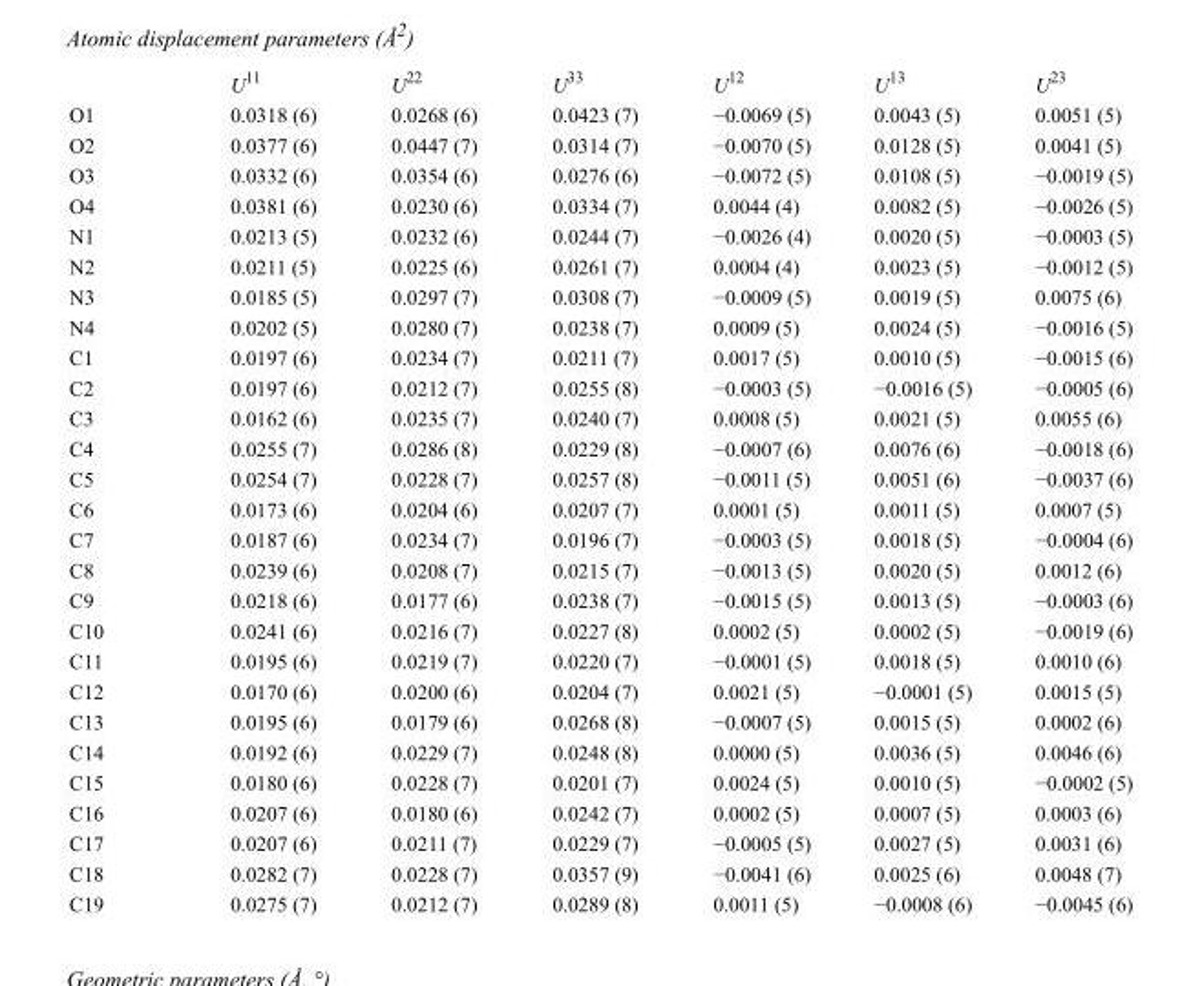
<table><thead><tr><td></td><td>U<sup>11</sup></td><td>U<sup>22</sup></td><td>U<sup>33</sup></td><td>U<sup>12</sup></td><td>U<sup>13</sup></td><td>U<sup>23</sup></td></tr></thead><tbody><tr><td>O1</td><td>0.0318 (6)</td><td>0.0268 (6)</td><td>0.0423 (7)</td><td>−0.0069 (5)</td><td>0.0043 (5)</td><td>0.0051 (5)</td></tr><tr><td>O2</td><td>0.0377 (6)</td><td>0.0447 (7)</td><td>0.0314 (7)</td><td>−0.0070 (5)</td><td>0.0128 (5)</td><td>0.0041 (5)</td></tr><tr><td>O3</td><td>0.0332 (6)</td><td>0.0354 (6)</td><td>0.0276 (6)</td><td>−0.0072 (5)</td><td>0.0108 (5)</td><td>−0.0019 (5)</td></tr><tr><td>O4</td><td>0.0381 (6)</td><td>0.0230 (6)</td><td>0.0334 (7)</td><td>0.0044 (4)</td><td>0.0082 (5)</td><td>−0.0026 (5)</td></tr><tr><td>N1</td><td>0.0213 (5)</td><td>0.0232 (6)</td><td>0.0244 (7)</td><td>−0.0026 (4)</td><td>0.0020 (5)</td><td>−0.0003 (5)</td></tr><tr><td>N2</td><td>0.0211 (5)</td><td>0.0225 (6)</td><td>0.0261 (7)</td><td>0.0004 (4)</td><td>0.0023 (5)</td><td>−0.0012 (5)</td></tr><tr><td>N3</td><td>0.0185 (5)</td><td>0.0297 (7)</td><td>0.0308 (7)</td><td>−0.0009 (5)</td><td>0.0019 (5)</td><td>0.0075 (6)</td></tr><tr><td>N4</td><td>0.0202 (5)</td><td>0.0280 (7)</td><td>0.0238 (7)</td><td>0.0009 (5)</td><td>0.0024 (5)</td><td>−0.0016 (5)</td></tr><tr><td>C1</td><td>0.0197 (6)</td><td>0.0234 (7)</td><td>0.0211 (7)</td><td>0.0017 (5)</td><td>0.0010 (5)</td><td>−0.0015 (6)</td></tr><tr><td>C2</td><td>0.0197 (6)</td><td>0.0212 (7)</td><td>0.0255 (8)</td><td>−0.0003 (5)</td><td>−0.0016 (5)</td><td>−0.0005 (6)</td></tr><tr><td>C3</td><td>0.0162 (6)</td><td>0.0235 (7)</td><td>0.0240 (7)</td><td>0.0008 (5)</td><td>0.0021 (5)</td><td>0.0055 (6)</td></tr><tr><td>C4</td><td>0.0255 (7)</td><td>0.0286 (8)</td><td>0.0229 (8)</td><td>−0.0007 (6)</td><td>0.0076 (6)</td><td>−0.0018 (6)</td></tr><tr><td>C5</td><td>0.0254 (7)</td><td>0.0228 (7)</td><td>0.0257 (8)</td><td>−0.0011 (5)</td><td>0.0051 (6)</td><td>−0.0037 (6)</td></tr><tr><td>C6</td><td>0.0173 (6)</td><td>0.0204 (6)</td><td>0.0207 (7)</td><td>0.0001 (5)</td><td>0.0011 (5)</td><td>0.0007 (5)</td></tr><tr><td>C7</td><td>0.0187 (6)</td><td>0.0234 (7)</td><td>0.0196 (7)</td><td>−0.0003 (5)</td><td>0.0018 (5)</td><td>−0.0004 (6)</td></tr><tr><td>C8</td><td>0.0239 (6)</td><td>0.0208 (7)</td><td>0.0215 (7)</td><td>−0.0013 (5)</td><td>0.0020 (5)</td><td>0.0012 (6)</td></tr><tr><td>C9</td><td>0.0218 (6)</td><td>0.0177 (6)</td><td>0.0238 (7)</td><td>−0.0015 (5)</td><td>0.0013 (5)</td><td>−0.0003 (6)</td></tr><tr><td>C10</td><td>0.0241 (6)</td><td>0.0216 (7)</td><td>0.0227 (8)</td><td>0.0002 (5)</td><td>0.0002 (5)</td><td>−0.0019 (6)</td></tr><tr><td>C11</td><td>0.0195 (6)</td><td>0.0219 (7)</td><td>0.0220 (7)</td><td>−0.0001 (5)</td><td>0.0018 (5)</td><td>0.0010 (6)</td></tr><tr><td>C12</td><td>0.0170 (6)</td><td>0.0200 (6)</td><td>0.0204 (7)</td><td>0.0021 (5)</td><td>−0.0001 (5)</td><td>0.0015 (5)</td></tr><tr><td>C13</td><td>0.0195 (6)</td><td>0.0179 (6)</td><td>0.0268 (8)</td><td>−0.0007 (5)</td><td>0.0015 (5)</td><td>0.0002 (6)</td></tr><tr><td>C14</td><td>0.0192 (6)</td><td>0.0229 (7)</td><td>0.0248 (8)</td><td>0.0000 (5)</td><td>0.0036 (5)</td><td>0.0046 (6)</td></tr><tr><td>C15</td><td>0.0180 (6)</td><td>0.0228 (7)</td><td>0.0201 (7)</td><td>0.0024 (5)</td><td>0.0010 (5)</td><td>−0.0002 (5)</td></tr><tr><td>C16</td><td>0.0207 (6)</td><td>0.0180 (6)</td><td>0.0242 (7)</td><td>0.0002 (5)</td><td>0.0007 (5)</td><td>0.0003 (6)</td></tr><tr><td>C17</td><td>0.0207 (6)</td><td>0.0211 (7)</td><td>0.0229 (7)</td><td>−0.0005 (5)</td><td>0.0027 (5)</td><td>0.0031 (6)</td></tr><tr><td>C18</td><td>0.0282 (7)</td><td>0.0228 (7)</td><td>0.0357 (9)</td><td>−0.0041 (6)</td><td>0.0025 (6)</td><td>0.0048 (7)</td></tr><tr><td>C19</td><td>0.0275 (7)</td><td>0.0212 (7)</td><td>0.0289 (8)</td><td>0.0011 (5)</td><td>−0.0008 (6)</td><td>−0.0045 (6)</td></tr></tbody></table>